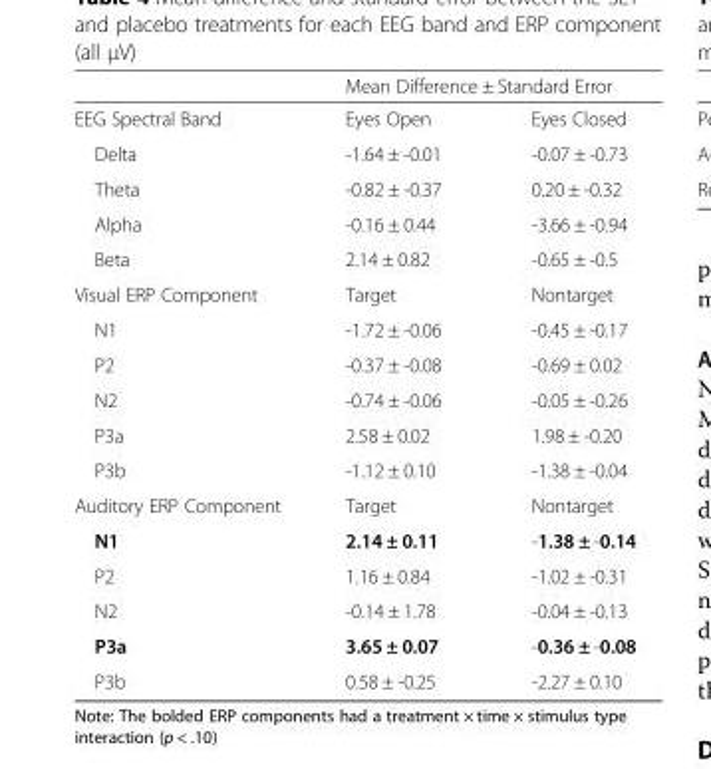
<table><thead><tr><td rowspan="2">EEG Spectral Band</td><td colspan="2">Mean Difference ± Standard Error</td></tr><tr><td>Eyes Open</td><td>Eyes Closed</td></tr></thead><tbody><tr><td>Delta</td><td>-1.64 ± -0.01</td><td>-0.07 ± -0.73</td></tr><tr><td>Theta</td><td>-0.82 ± -0.37</td><td>0.20 ± -0.32</td></tr><tr><td>Alpha</td><td>-0.16 ± 0.44</td><td>-3.66 ± -0.94</td></tr><tr><td>Beta</td><td>2.14 ± 0.82</td><td>-0.65 ± -0.5</td></tr><tr><td>Visual ERP Component</td><td>Target</td><td>Nontarget</td></tr><tr><td>N1</td><td>-1.72 ± -0.06</td><td>-0.45 ± -0.17</td></tr><tr><td>P2</td><td>-0.37 ± -0.08</td><td>-0.69 ± 0.02</td></tr><tr><td>N2</td><td>-0.74 ± -0.06</td><td>-0.05 ± -0.26</td></tr><tr><td>P3a</td><td>2.58 ± 0.02</td><td>1.98 ± -0.20</td></tr><tr><td>P3b</td><td>-1.12 ± 0.10</td><td>-1.38 ± -0.04</td></tr><tr><td>Auditory ERP Component</td><td>Target</td><td>Nontarget</td></tr><tr><td>N1</td><td>2.14 ± 0.11</td><td>-1.38 ± -0.14</td></tr><tr><td>P2</td><td>1.16 ± 0.84</td><td>-1.02 ± -0.31</td></tr><tr><td>N2</td><td>-0.14 ± 1.78</td><td>-0.04 ± -0.13</td></tr><tr><td>P3a</td><td>3.65 ± 0.07</td><td>-0.36 ± -0.08</td></tr><tr><td>P3b</td><td>0.58 ± -0.25</td><td>-2.27 ± 0.10</td></tr></tbody></table>